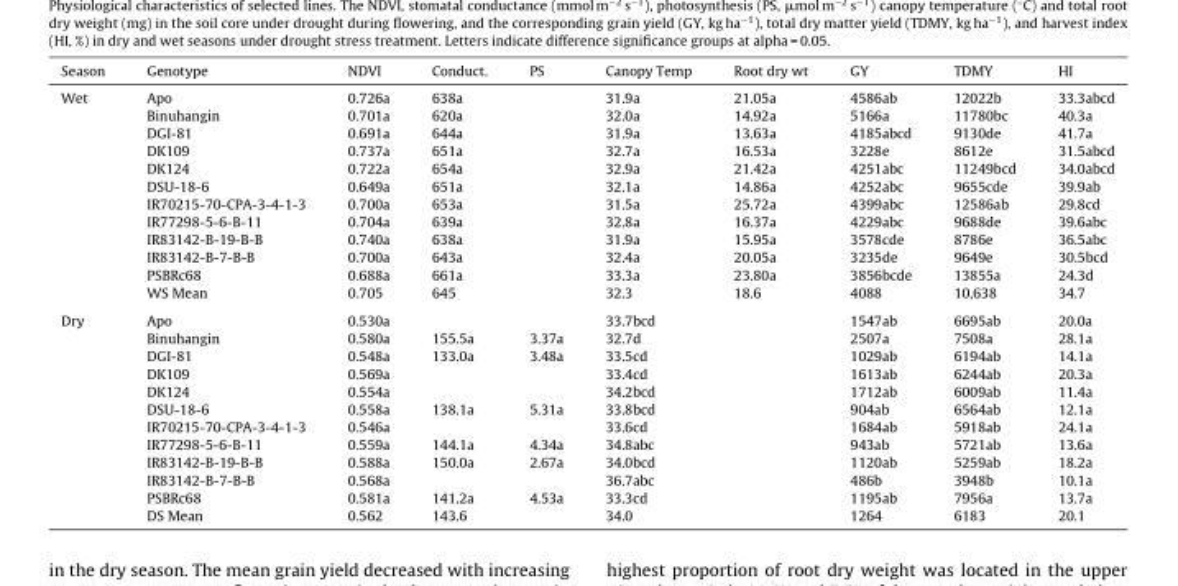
<table><thead><tr><td>Season</td><td>Genotype</td><td>NDVI</td><td>Conduct.</td><td>PS</td><td>Canopy Temp</td><td>Root dry wt</td><td>GY</td><td>TDMY</td><td>HI</td></tr></thead><tbody><tr><td rowspan="12">Wet</td><td>Apo</td><td>0.726a</td><td>638a</td><td></td><td>31.9a</td><td>21.05a</td><td>4586ab</td><td>12022b</td><td>33.3abcd</td></tr><tr><td>Binuhangin</td><td>0.701a</td><td>620a</td><td></td><td>32.0a</td><td>14.92a</td><td>5166a</td><td>11780bc</td><td>40.3a</td></tr><tr><td>DGI-81</td><td>0.691a</td><td>644a</td><td></td><td>31.9a</td><td>13.63a</td><td>4185abcd</td><td>9130de</td><td>41.7a</td></tr><tr><td>DK109</td><td>0.737a</td><td>651a</td><td></td><td>32.7a</td><td>16.53a</td><td>3228e</td><td>8612e</td><td>31.5abcd</td></tr><tr><td>DK124</td><td>0.722a</td><td>654a</td><td></td><td>32.9a</td><td>21.42a</td><td>4251abc</td><td>11249bcd</td><td>34.0abcd</td></tr><tr><td>DSU-18-6</td><td>0.649a</td><td>651a</td><td></td><td>32.1a</td><td>14.86a</td><td>4252abc</td><td>9655cde</td><td>39.9ab</td></tr><tr><td>IR70215-70-CPA-3-4-1-3</td><td>0.700a</td><td>653a</td><td></td><td>31.5a</td><td>25.72a</td><td>4399abc</td><td>12586ab</td><td>29.8cd</td></tr><tr><td>IR77298-5-6-B-11</td><td>0.704a</td><td>639a</td><td></td><td>32.8a</td><td>16.37a</td><td>4229abc</td><td>9688de</td><td>39.6abc</td></tr><tr><td>IR83142-B-19-B-B</td><td>0.740a</td><td>638a</td><td></td><td>31.9a</td><td>15.95a</td><td>3578cde</td><td>8786e</td><td>36.5abc</td></tr><tr><td>IR83142-B-7-B-B</td><td>0.700a</td><td>643a</td><td></td><td>32.4a</td><td>20.05a</td><td>3235de</td><td>9649e</td><td>30.5bcd</td></tr><tr><td>PSBRc68</td><td>0.688a</td><td>661a</td><td></td><td>33.3a</td><td>23.80a</td><td>3856bcde</td><td>13855a</td><td>24.3d</td></tr><tr><td>WS Mean</td><td>0.705</td><td>645</td><td></td><td>32.3</td><td>18.6</td><td>4088</td><td>10,638</td><td>34.7</td></tr><tr><td rowspan="12">Dry</td><td>Apo</td><td>0.530a</td><td></td><td></td><td>33.7bcd</td><td></td><td>1547ab</td><td>6695ab</td><td>20.0a</td></tr><tr><td>Binuhangin</td><td>0.580a</td><td>155.5a</td><td>3.37a</td><td>32.7d</td><td></td><td>2507a</td><td>7508a</td><td>28.1a</td></tr><tr><td>DGI-81</td><td>0.548a</td><td>133.0a</td><td>3.48a</td><td>33.5cd</td><td></td><td>1029ab</td><td>6194ab</td><td>14.1a</td></tr><tr><td>DK109</td><td>0.569a</td><td></td><td></td><td>33.4cd</td><td></td><td>1613ab</td><td>6244ab</td><td>20.3a</td></tr><tr><td>DK124</td><td>0.554a</td><td></td><td></td><td>34.2bcd</td><td></td><td>1712ab</td><td>6009ab</td><td>11.4a</td></tr><tr><td>DSU-18-6</td><td>0.558a</td><td>138.1a</td><td>5.31a</td><td>33.8bcd</td><td></td><td>904ab</td><td>6564ab</td><td>12.1a</td></tr><tr><td>IR70215-70-CPA-3-4-1-3</td><td>0.546a</td><td></td><td></td><td>33.6cd</td><td></td><td>1684ab</td><td>5918ab</td><td>24.1a</td></tr><tr><td>IR77298-5-6-B-11</td><td>0.559a</td><td>144.1a</td><td>4.34a</td><td>34.8abc</td><td></td><td>943ab</td><td>5721ab</td><td>13.6a</td></tr><tr><td>IR83142-B-19-B-B</td><td>0.588a</td><td>150.0a</td><td>2.67a</td><td>34.0bcd</td><td></td><td>1120ab</td><td>5259ab</td><td>18.2a</td></tr><tr><td>IR83142-B-7-B-B</td><td>0.568a</td><td></td><td></td><td>36.7abc</td><td></td><td>486b</td><td>3948b</td><td>10.1a</td></tr><tr><td>PSBRc68</td><td>0.581a</td><td>141.2a</td><td>4.53a</td><td>33.3cd</td><td></td><td>1195ab</td><td>7956a</td><td>13.7a</td></tr><tr><td>DS Mean</td><td>0.562</td><td>143.6</td><td></td><td>34.0</td><td></td><td>1264</td><td>6183</td><td>20.1</td></tr></tbody></table>